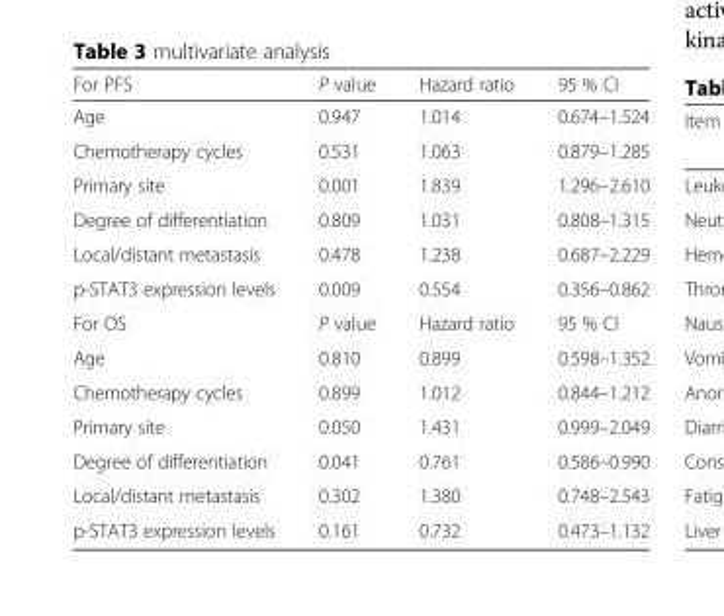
<table><thead><tr><td>For PFS</td><td>P value</td><td>Hazard ratio</td><td>95 % CI</td></tr></thead><tbody><tr><td>Age</td><td>0.947</td><td>1.014</td><td>0.674–1.524</td></tr><tr><td>Chemotherapy cycles</td><td>0.531</td><td>1.063</td><td>0.879–1.285</td></tr><tr><td>Primary site</td><td>0.001</td><td>1.839</td><td>1.296–2.610</td></tr><tr><td>Degree of differentiation</td><td>0.809</td><td>1.031</td><td>0.808–1.315</td></tr><tr><td>Local/distant metastasis</td><td>0.478</td><td>1.238</td><td>0.687–2.229</td></tr><tr><td>p-STAT3 expression levels</td><td>0.009</td><td>0.554</td><td>0.356–0.862</td></tr><tr><td>For OS</td><td>P value</td><td>Hazard ratio</td><td>95 % CI</td></tr><tr><td>Age</td><td>0.810</td><td>0.899</td><td>0.598–1.352</td></tr><tr><td>Chemotherapy cycles</td><td>0.899</td><td>1.012</td><td>0.844–1.212</td></tr><tr><td>Primary site</td><td>0.050</td><td>1.431</td><td>0.999–2.049</td></tr><tr><td>Degree of differentiation</td><td>0.041</td><td>0.761</td><td>0.586–0.990</td></tr><tr><td>Local/distant metastasis</td><td>0.302</td><td>1.380</td><td>0.748–2.543</td></tr><tr><td>p-STAT3 expression levels</td><td>0.161</td><td>0.732</td><td>0.473–1.132</td></tr></tbody></table>